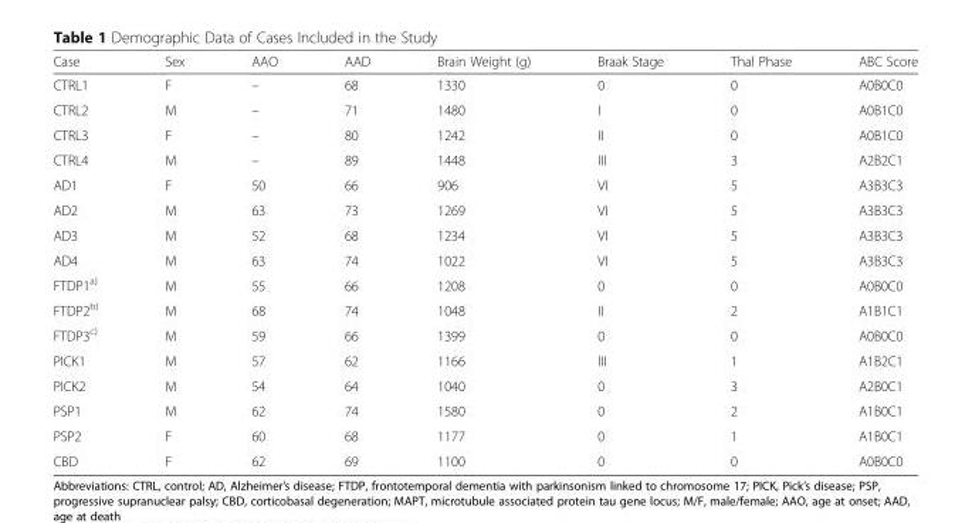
<table><thead><tr><td>Case</td><td>Sex</td><td>AAO</td><td>AAD</td><td>Brain Weight (g)</td><td>Braak Stage</td><td>Thal Phase</td><td>ABC Score</td></tr></thead><tbody><tr><td>CTRL1</td><td>F</td><td>–</td><td>68</td><td>1330</td><td>0</td><td>0</td><td>A0B0C0</td></tr><tr><td>CTRL2</td><td>M</td><td>–</td><td>71</td><td>1480</td><td>I</td><td>0</td><td>A0B1C0</td></tr><tr><td>CTRL3</td><td>F</td><td>–</td><td>80</td><td>1242</td><td>II</td><td>0</td><td>A0B1C0</td></tr><tr><td>CTRL4</td><td>M</td><td>–</td><td>89</td><td>1448</td><td>III</td><td>3</td><td>A2B2C1</td></tr><tr><td>AD1</td><td>F</td><td>50</td><td>66</td><td>906</td><td>VI</td><td>5</td><td>A3B3C3</td></tr><tr><td>AD2</td><td>M</td><td>63</td><td>73</td><td>1269</td><td>VI</td><td>5</td><td>A3B3C3</td></tr><tr><td>AD3</td><td>M</td><td>52</td><td>68</td><td>1234</td><td>VI</td><td>5</td><td>A3B3C3</td></tr><tr><td>AD4</td><td>M</td><td>63</td><td>74</td><td>1022</td><td>VI</td><td>5</td><td>A3B3C3</td></tr><tr><td>FTDP1<sup>a)</sup></td><td>M</td><td>55</td><td>66</td><td>1208</td><td>0</td><td>0</td><td>A0B0C0</td></tr><tr><td>FTDP2<sup>b)</sup></td><td>M</td><td>68</td><td>74</td><td>1048</td><td>II</td><td>2</td><td>A1B1C1</td></tr><tr><td>FTDP3<sup>c)</sup></td><td>M</td><td>59</td><td>66</td><td>1399</td><td>0</td><td>0</td><td>A0B0C0</td></tr><tr><td>PICK1</td><td>M</td><td>57</td><td>62</td><td>1166</td><td>III</td><td>1</td><td>A1B2C1</td></tr><tr><td>PICK2</td><td>M</td><td>54</td><td>64</td><td>1040</td><td>0</td><td>3</td><td>A2B0C1</td></tr><tr><td>PSP1</td><td>M</td><td>62</td><td>74</td><td>1580</td><td>0</td><td>2</td><td>A1B0C1</td></tr><tr><td>PSP2</td><td>F</td><td>60</td><td>68</td><td>1177</td><td>0</td><td>1</td><td>A1B0C1</td></tr><tr><td>CBD</td><td>F</td><td>62</td><td>69</td><td>1100</td><td>0</td><td>0</td><td>A0B0C0</td></tr></tbody></table>